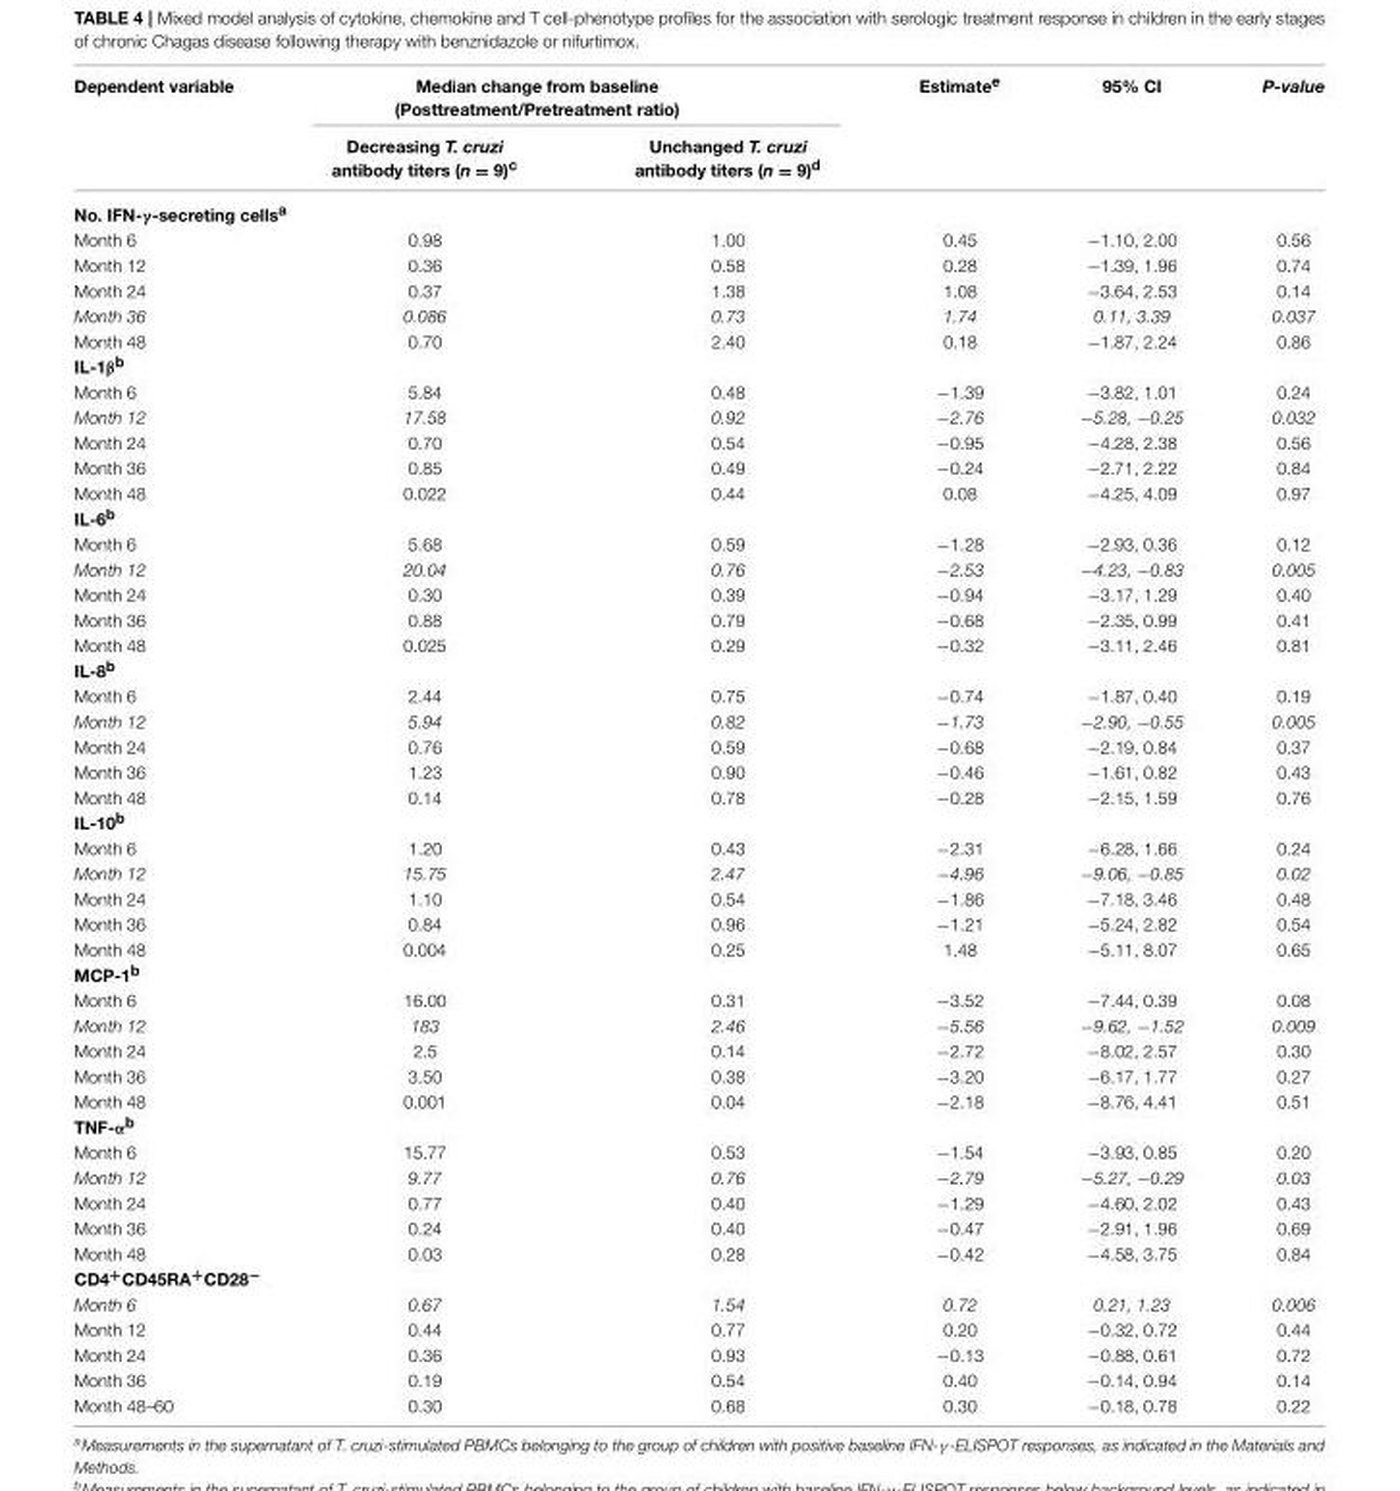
<table><thead><tr><td rowspan="2">Dependent variable</td><td colspan="2">Median change from baseline (Posttreatment/Pretreatment ratio)</td><td rowspan="2">Estimate<sup>e</sup></td><td rowspan="2">95% CI</td><td rowspan="2">P-value</td></tr><tr><td>Decreasing T. cruzi antibody titers (n = 9)<sup>c</sup></td><td>Unchanged T. cruzi antibody titers (n = 9)<sup>d</sup></td></tr></thead><tbody><tr><td colspan="6">No. IFN-γ-secreting cells<sup>a</sup></td></tr><tr><td>Month 6</td><td>0.98</td><td>1.00</td><td>0.45</td><td>−1.10, 2.00</td><td>0.56</td></tr><tr><td>Month 12</td><td>0.36</td><td>0.58</td><td>0.28</td><td>−1.39, 1.96</td><td>0.74</td></tr><tr><td>Month 24</td><td>0.37</td><td>1.38</td><td>1.08</td><td>−3.64, 2.53</td><td>0.14</td></tr><tr><td>Month 36</td><td>0.086</td><td>0.73</td><td>1.74</td><td>0.11, 3.39</td><td>0.037</td></tr><tr><td>Month 48</td><td>0.70</td><td>2.40</td><td>0.18</td><td>−1.87, 2.24</td><td>0.86</td></tr><tr><td colspan="6">IL-1β<sup>b</sup></td></tr><tr><td>Month 6</td><td>5.84</td><td>0.48</td><td>−1.39</td><td>−3.82, 1.01</td><td>0.24</td></tr><tr><td>Month 12</td><td>17.58</td><td>0.92</td><td>−2.76</td><td>−5.28, −0.25</td><td>0.032</td></tr><tr><td>Month 24</td><td>0.70</td><td>0.54</td><td>−0.95</td><td>−4.28, 2.38</td><td>0.56</td></tr><tr><td>Month 36</td><td>0.85</td><td>0.49</td><td>−0.24</td><td>−2.71, 2.22</td><td>0.84</td></tr><tr><td>Month 48</td><td>0.022</td><td>0.44</td><td>0.08</td><td>−4.25, 4.09</td><td>0.97</td></tr><tr><td colspan="6">IL-6<sup>b</sup></td></tr><tr><td>Month 6</td><td>5.68</td><td>0.59</td><td>−1.28</td><td>−2.93, 0.36</td><td>0.12</td></tr><tr><td>Month 12</td><td>20.04</td><td>0.76</td><td>−2.53</td><td>−4.23, −0.83</td><td>0.005</td></tr><tr><td>Month 24</td><td>0.30</td><td>0.39</td><td>−0.94</td><td>−3.17, 1.29</td><td>0.40</td></tr><tr><td>Month 36</td><td>0.88</td><td>0.79</td><td>−0.68</td><td>−2.35, 0.99</td><td>0.41</td></tr><tr><td>Month 48</td><td>0.025</td><td>0.29</td><td>−0.32</td><td>−3.11, 2.46</td><td>0.81</td></tr><tr><td colspan="6">IL-8<sup>b</sup></td></tr><tr><td>Month 6</td><td>2.44</td><td>0.75</td><td>−0.74</td><td>−1.87, 0.40</td><td>0.19</td></tr><tr><td>Month 12</td><td>5.94</td><td>0.82</td><td>−1.73</td><td>−2.90, −0.55</td><td>0.005</td></tr><tr><td>Month 24</td><td>0.76</td><td>0.59</td><td>−0.68</td><td>−2.19, 0.84</td><td>0.37</td></tr><tr><td>Month 36</td><td>1.23</td><td>0.90</td><td>−0.46</td><td>−1.61, 0.82</td><td>0.43</td></tr><tr><td>Month 48</td><td>0.14</td><td>0.78</td><td>−0.28</td><td>−2.15, 1.59</td><td>0.76</td></tr><tr><td colspan="6">IL-10<sup>b</sup></td></tr><tr><td>Month 6</td><td>1.20</td><td>0.43</td><td>−2.31</td><td>−6.28, 1.66</td><td>0.24</td></tr><tr><td>Month 12</td><td>15.75</td><td>2.47</td><td>−4.96</td><td>−9.06, −0.85</td><td>0.02</td></tr><tr><td>Month 24</td><td>1.10</td><td>0.54</td><td>−1.86</td><td>−7.18, 3.46</td><td>0.48</td></tr><tr><td>Month 36</td><td>0.84</td><td>0.96</td><td>−1.21</td><td>−5.24, 2.82</td><td>0.54</td></tr><tr><td>Month 48</td><td>0.004</td><td>0.25</td><td>1.48</td><td>−5.11, 8.07</td><td>0.65</td></tr><tr><td colspan="6">MCP-1<sup>b</sup></td></tr><tr><td>Month 6</td><td>16.00</td><td>0.31</td><td>−3.52</td><td>−7.44, 0.39</td><td>0.08</td></tr><tr><td>Month 12</td><td>183</td><td>2.46</td><td>−5.56</td><td>−9.62, −1.52</td><td>0.009</td></tr><tr><td>Month 24</td><td>2.5</td><td>0.14</td><td>−2.72</td><td>−8.02, 2.57</td><td>0.30</td></tr><tr><td>Month 36</td><td>3.50</td><td>0.38</td><td>−3.20</td><td>−6.17, 1.77</td><td>0.27</td></tr><tr><td>Month 48</td><td>0.001</td><td>0.04</td><td>−2.18</td><td>−8.76, 4.41</td><td>0.51</td></tr><tr><td colspan="6">TNF-α<sup>b</sup></td></tr><tr><td>Month 6</td><td>15.77</td><td>0.53</td><td>−1.54</td><td>−3.93, 0.85</td><td>0.20</td></tr><tr><td>Month 12</td><td>9.77</td><td>0.76</td><td>−2.79</td><td>−5.27, −0.29</td><td>0.03</td></tr><tr><td>Month 24</td><td>0.77</td><td>0.40</td><td>−1.29</td><td>−4.60, 2.02</td><td>0.43</td></tr><tr><td>Month 36</td><td>0.24</td><td>0.40</td><td>−0.47</td><td>−2.91, 1.96</td><td>0.69</td></tr><tr><td>Month 48</td><td>0.03</td><td>0.28</td><td>−0.42</td><td>−4.58, 3.75</td><td>0.84</td></tr><tr><td colspan="6">CD4<sup>+</sup>CD45RA<sup>+</sup>CD28<sup>−</sup></td></tr><tr><td>Month 6</td><td>0.67</td><td>1.54</td><td>0.72</td><td>0.21, 1.23</td><td>0.006</td></tr><tr><td>Month 12</td><td>0.44</td><td>0.77</td><td>0.20</td><td>−0.32, 0.72</td><td>0.44</td></tr><tr><td>Month 24</td><td>0.36</td><td>0.93</td><td>−0.13</td><td>−0.88, 0.61</td><td>0.72</td></tr><tr><td>Month 36</td><td>0.19</td><td>0.54</td><td>0.40</td><td>−0.14, 0.94</td><td>0.14</td></tr><tr><td>Month 48–60</td><td>0.30</td><td>0.68</td><td>0.30</td><td>−0.18, 0.78</td><td>0.22</td></tr></tbody></table>